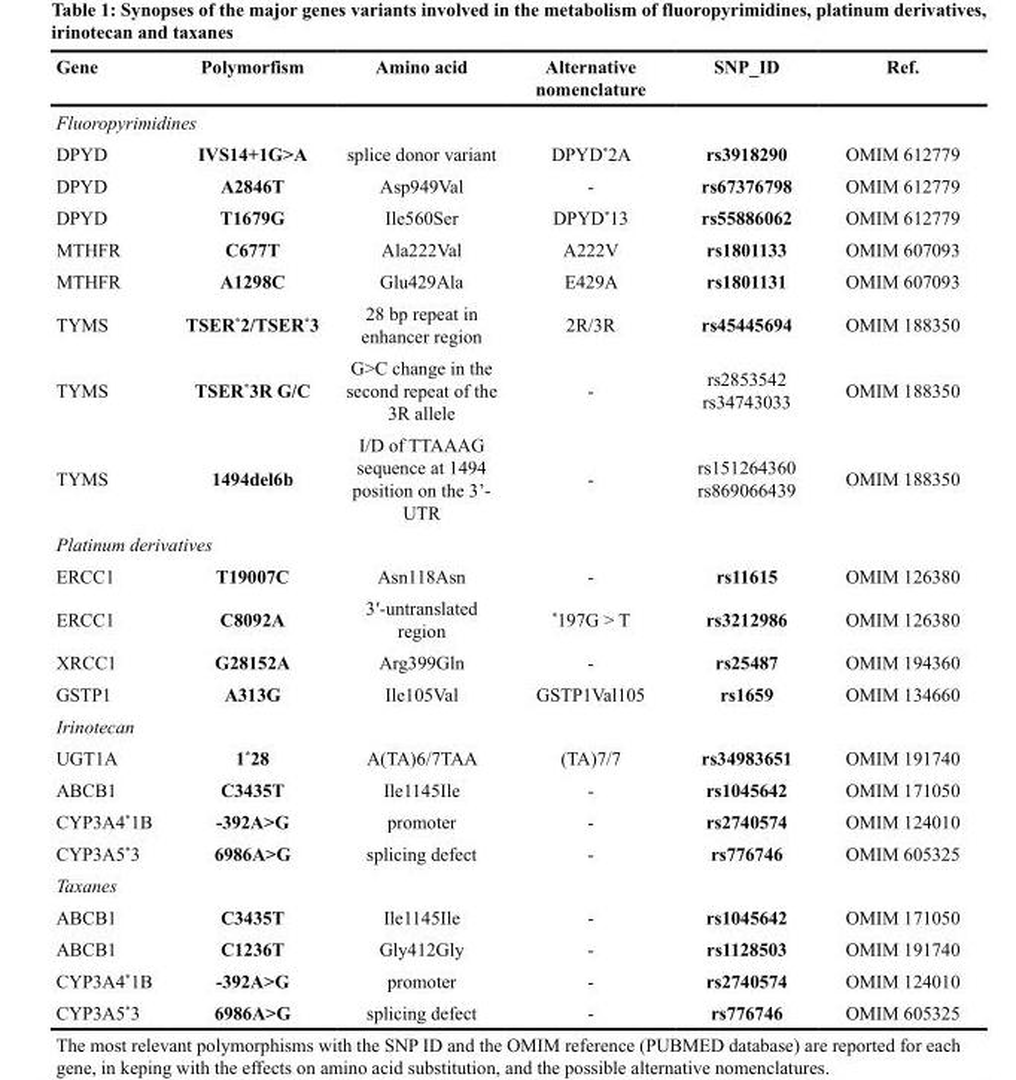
<table><thead><tr><td>Gene</td><td>Polymorfism</td><td>Amino acid</td><td>Alternative nomenclature</td><td>SNP_ID</td><td>Ref.</td></tr></thead><tbody><tr><td colspan="6">Fluoropyrimidines</td></tr><tr><td>DPYD</td><td>IVS14+1G&gt;A</td><td>splice donor variant</td><td>DPYD*2A</td><td>rs3918290</td><td>OMIM 612779</td></tr><tr><td>DPYD</td><td>A2846T</td><td>Asp949Val</td><td>-</td><td>rs67376798</td><td>OMIM 612779</td></tr><tr><td>DPYD</td><td>T1679G</td><td>Ile560Ser</td><td>DPYD*13</td><td>rs55886062</td><td>OMIM 612779</td></tr><tr><td>MTHFR</td><td>C677T</td><td>Ala222Val</td><td>A222V</td><td>rs1801133</td><td>OMIM 607093</td></tr><tr><td>MTHFR</td><td>A1298C</td><td>Glu429Ala</td><td>E429A</td><td>rs1801131</td><td>OMIM 607093</td></tr><tr><td>TYMS</td><td>TSER*2/TSER*3</td><td>28 bp repeat in enhancer region</td><td>2R/3R</td><td>rs45445694</td><td>OMIM 188350</td></tr><tr><td>TYMS</td><td>TSER*3R G/C</td><td>G&gt;C change in the second repeat of the 3R allele</td><td>-</td><td>rs2853542 rs34743033</td><td>OMIM 188350</td></tr><tr><td>TYMS</td><td>1494del6b</td><td>I/D of TTAAAG sequence at 1494 position on the 3’- UTR</td><td>-</td><td>rs151264360 rs869066439</td><td>OMIM 188350</td></tr><tr><td colspan="6">Platinum derivatives</td></tr><tr><td>ERCC1</td><td>T19007C</td><td>Asn118Asn</td><td>-</td><td>rs11615</td><td>OMIM 126380</td></tr><tr><td>ERCC1</td><td>C8092A</td><td>3′-untranslated region</td><td>*197G &gt; T</td><td>rs3212986</td><td>OMIM 126380</td></tr><tr><td>XRCC1</td><td>G28152A</td><td>Arg399Gln</td><td>-</td><td>rs25487</td><td>OMIM 194360</td></tr><tr><td>GSTP1</td><td>A313G</td><td>Ile105Val</td><td>GSTP1Val105</td><td>rs1659</td><td>OMIM 134660</td></tr><tr><td colspan="6">Irinotecan</td></tr><tr><td>UGT1A</td><td>1*28</td><td>A(TA)6/7TAA</td><td>(TA)7/7</td><td>rs34983651</td><td>OMIM 191740</td></tr><tr><td>ABCB1</td><td>C3435T</td><td>Ile1145Ile</td><td>-</td><td>rs1045642</td><td>OMIM 171050</td></tr><tr><td>CYP3A4*1B</td><td>-392A&gt;G</td><td>promoter</td><td>-</td><td>rs2740574</td><td>OMIM 124010</td></tr><tr><td>CYP3A5*3</td><td>6986A&gt;G</td><td>splicing defect</td><td>-</td><td>rs776746</td><td>OMIM 605325</td></tr><tr><td colspan="6">Taxanes</td></tr><tr><td>ABCB1</td><td>C3435T</td><td>Ile1145Ile</td><td>-</td><td>rs1045642</td><td>OMIM 171050</td></tr><tr><td>ABCB1</td><td>C1236T</td><td>Gly412Gly</td><td>-</td><td>rs1128503</td><td>OMIM 191740</td></tr><tr><td>CYP3A4*1B</td><td>-392A&gt;G</td><td>promoter</td><td>-</td><td>rs2740574</td><td>OMIM 124010</td></tr><tr><td>CYP3A5*3</td><td>6986A&gt;G</td><td>splicing defect</td><td>-</td><td>rs776746</td><td>OMIM 605325</td></tr></tbody></table>